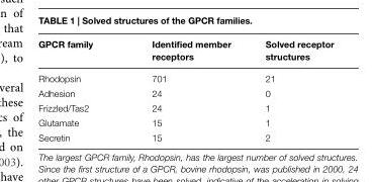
<table><thead><tr><td>GPCR family</td><td>Identified member receptors</td><td>Solved receptor structures</td></tr></thead><tbody><tr><td>Rhodopsin</td><td>701</td><td>21</td></tr><tr><td>Adhesion</td><td>24</td><td>0</td></tr><tr><td>Frizzled/Tas2</td><td>24</td><td>1</td></tr><tr><td>Glutamate</td><td>15</td><td>1</td></tr><tr><td>Secretin</td><td>15</td><td>2</td></tr></tbody></table>